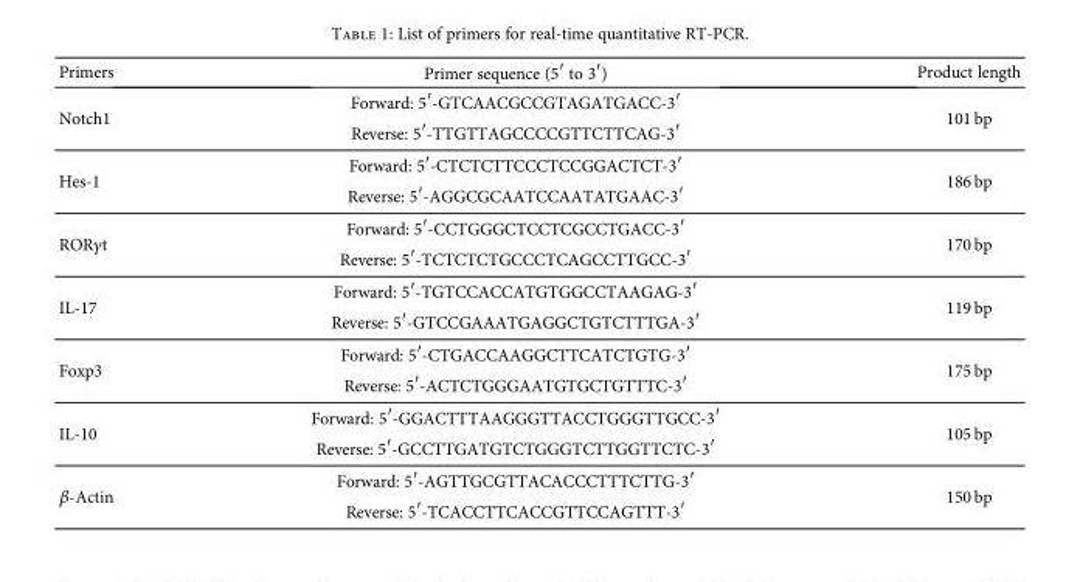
<table><thead><tr><td>Primers</td><td>Primer sequence (5′ to 3′)</td><td>Product length</td></tr></thead><tbody><tr><td rowspan="2">Notch1</td><td>Forward: 5′-GTCAACGCCGTAGATGACC-3′</td><td rowspan="2">101 bp</td></tr><tr><td>Reverse: 5′-TTGTTAGCCCCGTTCTTCAG-3′</td></tr><tr><td rowspan="2">Hes-1</td><td>Forward: 5′-CTCTCTTCCCTCCGGACTCT-3′</td><td rowspan="2">186 bp</td></tr><tr><td>Reverse: 5′-AGGCGCAATCCAATATGAAC-3′</td></tr><tr><td rowspan="2">RORγt</td><td>Forward: 5′-CCTGGGCTCCTCGCCTGACC-3′</td><td rowspan="2">170 bp</td></tr><tr><td>Reverse: 5′-TCTCTCTGCCCTCAGCCTTGCC-3′</td></tr><tr><td rowspan="2">IL-17</td><td>Forward: 5′-TGTCCACCATGTGGCCTAAGAG-3′</td><td rowspan="2">119 bp</td></tr><tr><td>Reverse: 5′-GTCCGAAATGAGGCTGTCTTTGA-3′</td></tr><tr><td rowspan="2">Foxp3</td><td>Forward: 5′-CTGACCAAGGCTTCATCTGTG-3′</td><td rowspan="2">175 bp</td></tr><tr><td>Reverse: 5′-ACTCTGGGAATGTGCTGTTTC-3′</td></tr><tr><td rowspan="2">IL-10</td><td>Forward: 5′-GGACTTTAAGGGTTACCTGGGTTGCC-3′</td><td rowspan="2">105 bp</td></tr><tr><td>Reverse: 5′-GCCTTGATGTCTGGGTCTTGGTTCTC-3′</td></tr><tr><td rowspan="2">β-Actin</td><td>Forward: 5′-AGTTGCGTTACACCCTTTCTTG-3′</td><td rowspan="2">150 bp</td></tr><tr><td>Reverse: 5′-TCACCTTCACCGTTCCAGTTT-3′</td></tr></tbody></table>